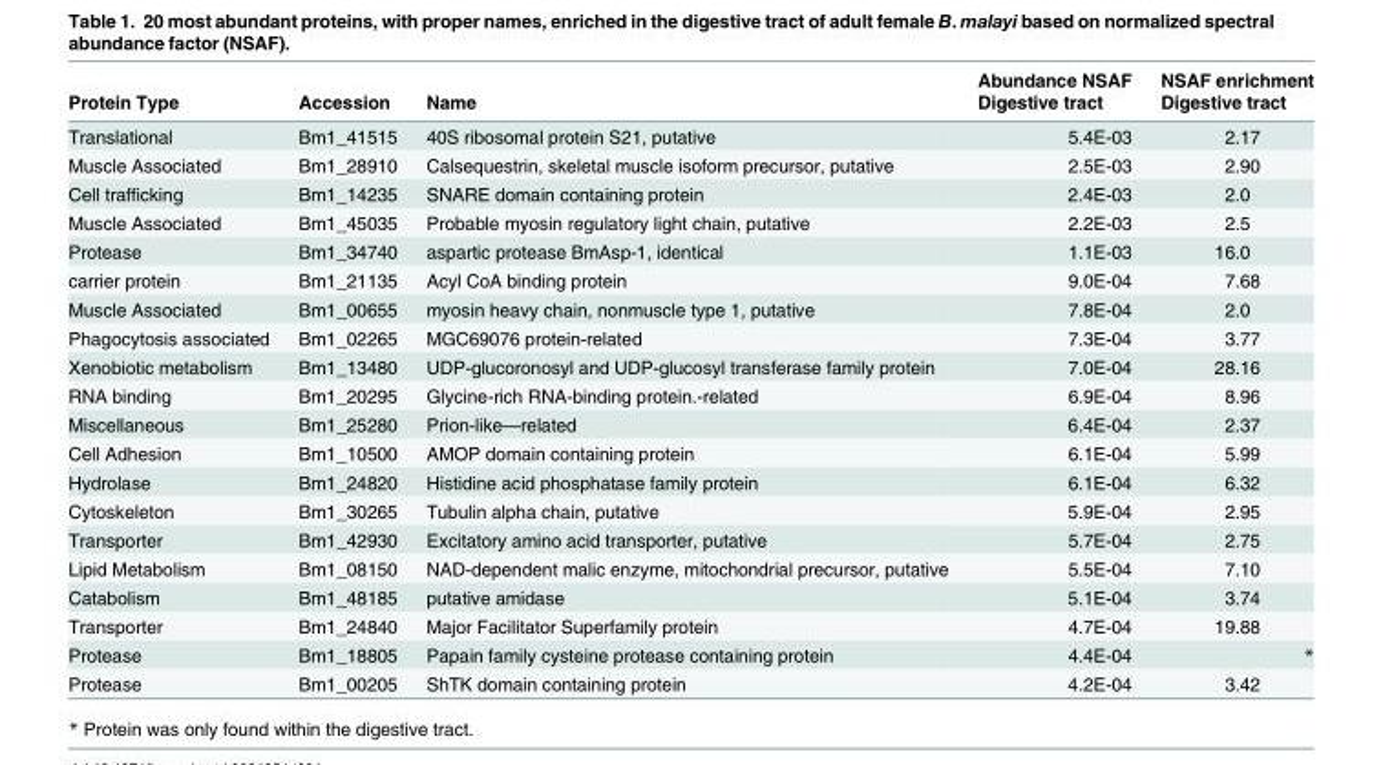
<table><thead><tr><td rowspan="2">Protein Type</td><td rowspan="2">Accession</td><td rowspan="2">Name</td><td rowspan="2">Abundance NSAF Digestive tract</td><td rowspan="2">NSAF enrichment Digestive tract</td></tr><tr></tr></thead><tbody><tr><td>Translational</td><td>Bm1_41515</td><td>40S ribosomal protein S21, putative</td><td>5.4E-03</td><td>2.17</td></tr><tr><td>Muscle Associated</td><td>Bm1_28910</td><td>Calsequestrin, skeletal muscle isoform precursor, putative</td><td>2.5E-03</td><td>2.90</td></tr><tr><td>Cell trafficking</td><td>Bm1_14235</td><td>SNARE domain containing protein</td><td>2.4E-03</td><td>2.0</td></tr><tr><td>Muscle Associated</td><td>Bm1_45035</td><td>Probable myosin regulatory light chain, putative</td><td>2.2E-03</td><td>2.5</td></tr><tr><td>Protease</td><td>Bm1_34740</td><td>aspartic protease BmAsp-1, identical</td><td>1.1E-03</td><td>16.0</td></tr><tr><td>carrier protein</td><td>Bm1_21135</td><td>Acyl CoA binding protein</td><td>9.0E-04</td><td>7.68</td></tr><tr><td>Muscle Associated</td><td>Bm1_00655</td><td>myosin heavy chain, nonmuscle type 1, putative</td><td>7.8E-04</td><td>2.0</td></tr><tr><td>Phagocytosis associated</td><td>Bm1_02265</td><td>MGC69076 protein-related</td><td>7.3E-04</td><td>3.77</td></tr><tr><td>Xenobiotic metabolism</td><td>Bm1_13480</td><td>UDP-glucoronosyl and UDP-glucosyl transferase family protein</td><td>7.0E-04</td><td>28.16</td></tr><tr><td>RNA binding</td><td>Bm1_20295</td><td>Glycine-rich RNA-binding protein.-related</td><td>6.9E-04</td><td>8.96</td></tr><tr><td>Miscellaneous</td><td>Bm1_25280</td><td>Prion-like—related</td><td>6.4E-04</td><td>2.37</td></tr><tr><td>Cell Adhesion</td><td>Bm1_10500</td><td>AMOP domain containing protein</td><td>6.1E-04</td><td>5.99</td></tr><tr><td>Hydrolase</td><td>Bm1_24820</td><td>Histidine acid phosphatase family protein</td><td>6.1E-04</td><td>6.32</td></tr><tr><td>Cytoskeleton</td><td>Bm1_30265</td><td>Tubulin alpha chain, putative</td><td>5.9E-04</td><td>2.95</td></tr><tr><td>Transporter</td><td>Bm1_42930</td><td>Excitatory amino acid transporter, putative</td><td>5.7E-04</td><td>2.75</td></tr><tr><td>Lipid Metabolism</td><td>Bm1_08150</td><td>NAD-dependent malic enzyme, mitochondrial precursor, putative</td><td>5.5E-04</td><td>7.10</td></tr><tr><td>Catabolism</td><td>Bm1_48185</td><td>putative amidase</td><td>5.1E-04</td><td>3.74</td></tr><tr><td>Transporter</td><td>Bm1_24840</td><td>Major Facilitator Superfamily protein</td><td>4.7E-04</td><td>19.88</td></tr><tr><td>Protease</td><td>Bm1_18805</td><td>Papain family cysteine protease containing protein</td><td>4.4E-04</td><td>*</td></tr><tr><td>Protease</td><td>Bm1_00205</td><td>ShTK domain containing protein</td><td>4.2E-04</td><td>3.42</td></tr></tbody></table>